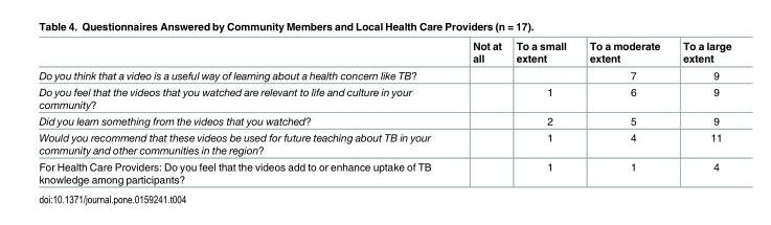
<table><thead><tr><td></td><td>Not at all</td><td>To a small extent</td><td>To a moderate extent</td><td>To a large extent</td></tr></thead><tbody><tr><td>Do you think that a video is a useful way of learning about a health concern like TB?</td><td></td><td></td><td>7</td><td>9</td></tr><tr><td>Do you feel that the videos that you watched are relevant to life and culture in your community?</td><td></td><td>1</td><td>6</td><td>9</td></tr><tr><td>Did you learn something from the videos that you watched?</td><td></td><td>2</td><td>5</td><td>9</td></tr><tr><td>Would you recommend that these videos be used for future teaching about TB in your community and other communities in the region?</td><td></td><td>1</td><td>4</td><td>11</td></tr><tr><td>For Health Care Providers: Do you feel that the videos add to or enhance uptake of TB knowledge among participants?</td><td></td><td>1</td><td>1</td><td>4</td></tr></tbody></table>